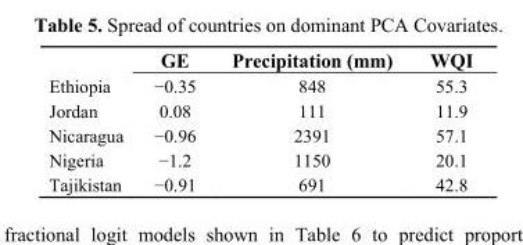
<table><thead><tr><td></td><td>GE</td><td>Precipitation (mm)</td><td>WQI</td></tr></thead><tbody><tr><td>Ethiopia</td><td>−0.35</td><td>848</td><td>55.3</td></tr><tr><td>Jordan</td><td>0.08</td><td>111</td><td>11.9</td></tr><tr><td>Nicaragua</td><td>−0.96</td><td>2391</td><td>57.1</td></tr><tr><td>Nigeria</td><td>−1.2</td><td>1150</td><td>20.1</td></tr><tr><td>Tajikistan</td><td>−0.91</td><td>691</td><td>42.8</td></tr></tbody></table>